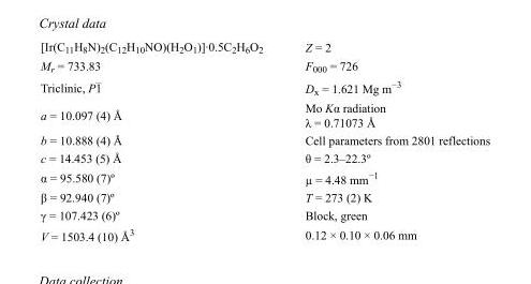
<table><tbody><tr><td>[Ir(C<sub>11</sub>H<sub>8</sub>N)<sub>2</sub>(C<sub>12</sub>H<sub>10</sub>NO)(H<sub>2</sub>O<sub>1</sub>)]·0.5C<sub>2</sub>H<sub>6</sub>O<sub>2</sub></td><td>Z = 2</td></tr><tr><td>M<sub>r</sub> = 733.83</td><td>F<sub>000</sub> = 726</td></tr><tr><td>Triclinic, P1</td><td>D<sub>x</sub> = 1.621 Mg m<sup>−3</sup></td></tr><tr><td>a = 10.097 (4) Å</td><td>Mo Kα radiation λ = 0.71073 Å</td></tr><tr><td>b = 10.888 (4) Å</td><td>Cell parameters from 2801 reflections</td></tr><tr><td>c = 14.453 (5) Å</td><td>θ = 2.3–22.3º</td></tr><tr><td>α = 95.580 (7)º</td><td>µ = 4.48 mm<sup>−1</sup></td></tr><tr><td>β = 92.940 (7)º</td><td>T = 273 (2) K</td></tr><tr><td>γ = 107.423 (6)º</td><td>Block, green</td></tr><tr><td>V = 1503.4 (10) Å<sup>3</sup></td><td>0.12 × 0.10 × 0.06 mm</td></tr></tbody></table>